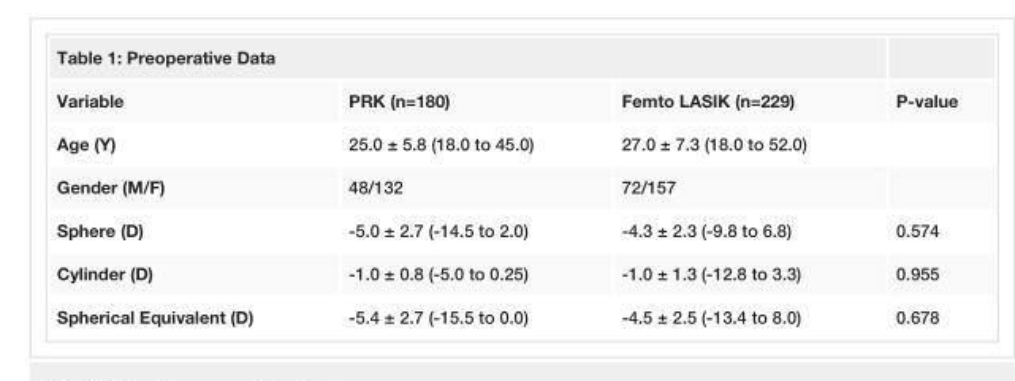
<table><tbody><tr><td colspan="4">Table 1: Preoperative Data</td></tr><tr><td>Variable</td><td>PRK (n=180)</td><td>Femto LASIK (n=229)</td><td>P-value</td></tr><tr><td>Age (Y)</td><td>25.0 ± 5.8 (18.0 to 45.0)</td><td>27.0 ± 7.3 (18.0 to 52.0)</td><td></td></tr><tr><td>Gender (M/F)</td><td>48/132</td><td>72/157</td><td></td></tr><tr><td>Sphere (D)</td><td>-5.0 ± 2.7 (-14.5 to 2.0)</td><td>-4.3 ± 2.3 (-9.8 to 6.8)</td><td>0.574</td></tr><tr><td>Cylinder (D)</td><td>-1.0 ± 0.8 (-5.0 to 0.25)</td><td>-1.0 ± 1.3 (-12.8 to 3.3)</td><td>0.955</td></tr><tr><td>Spherical Equivalent (D)</td><td>-5.4 ± 2.7 (-15.5 to 0.0)</td><td>-4.5 ± 2.5 (-13.4 to 8.0)</td><td>0.678</td></tr></tbody></table>